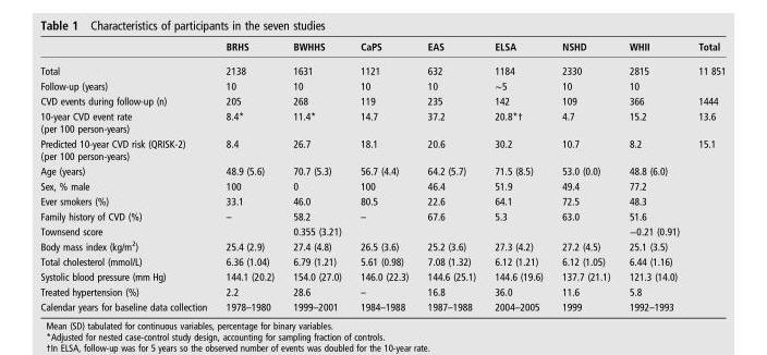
<table><thead><tr><td></td><td>BRHS</td><td>BWHHS</td><td>CaPS</td><td>EAS</td><td>ELSA</td><td>NSHD</td><td>WHII</td><td>Total</td></tr></thead><tbody><tr><td>Total</td><td>2138</td><td>1631</td><td>1121</td><td>632</td><td>1184</td><td>2330</td><td>2815</td><td>11 851</td></tr><tr><td>Follow-up (years)</td><td>10</td><td>10</td><td>10</td><td>10</td><td>∼5</td><td>10</td><td>10</td><td></td></tr><tr><td>CVD events during follow-up (n)</td><td>205</td><td>268</td><td>119</td><td>235</td><td>142</td><td>109</td><td>366</td><td>1444</td></tr><tr><td>10-year CVD event rate (per 100 person-years)</td><td>8.4*</td><td>11.4*</td><td>14.7</td><td>37.2</td><td>20.8*†</td><td>4.7</td><td>15.2</td><td>13.6</td></tr><tr><td>Predicted 10-year CVD risk (QRISK-2) (per 100 person-years)</td><td>8.4</td><td>26.7</td><td>18.1</td><td>20.6</td><td>30.2</td><td>10.7</td><td>8.2</td><td>15.1</td></tr><tr><td>Age (years)</td><td>48.9 (5.6)</td><td>70.7 (5.3)</td><td>56.7 (4.4)</td><td>64.2 (5.7)</td><td>71.5 (8.5)</td><td>53.0 (0.0)</td><td>48.8 (6.0)</td><td></td></tr><tr><td>Sex, % male</td><td>100</td><td>0</td><td>100</td><td>46.4</td><td>51.9</td><td>49.4</td><td>77.2</td><td></td></tr><tr><td>Ever smokers (%)</td><td>33.1</td><td>46.0</td><td>80.5</td><td>22.6</td><td>64.1</td><td>72.5</td><td>48.3</td><td></td></tr><tr><td>Family history of CVD (%)</td><td>–</td><td>58.2</td><td>–</td><td>67.6</td><td>5.3</td><td>63.0</td><td>51.6</td><td></td></tr><tr><td>Townsend score</td><td></td><td>0.355 (3.21)</td><td></td><td></td><td></td><td></td><td>−0.21 (0.91)</td><td></td></tr><tr><td>Body mass index (kg/m<sup>2</sup>)</td><td>25.4 (2.9)</td><td>27.4 (4.8)</td><td>26.5 (3.6)</td><td>25.2 (3.6)</td><td>27.3 (4.2)</td><td>27.2 (4.5)</td><td>25.1 (3.5)</td><td></td></tr><tr><td>Total cholesterol (mmol/L)</td><td>6.36 (1.04)</td><td>6.79 (1.21)</td><td>5.61 (0.98)</td><td>7.08 (1.32)</td><td>6.12 (1.21)</td><td>6.12 (1.05)</td><td>6.44 (1.16)</td><td></td></tr><tr><td>Systolic blood pressure (mm Hg)</td><td>144.1 (20.2)</td><td>154.0 (27.0)</td><td>146.0 (22.3)</td><td>144.6 (25.1)</td><td>144.6 (19.6)</td><td>137.7 (21.1)</td><td>121.3 (14.0)</td><td></td></tr><tr><td>Treated hypertension (%)</td><td>2.2</td><td>28.6</td><td>–</td><td>16.8</td><td>36.0</td><td>11.6</td><td>5.8</td><td></td></tr><tr><td>Calendar years for baseline data collection</td><td>1978–1980</td><td>1999–2001</td><td>1984–1988</td><td>1987–1988</td><td>2004–2005</td><td>1999</td><td>1992–1993</td><td></td></tr></tbody></table>